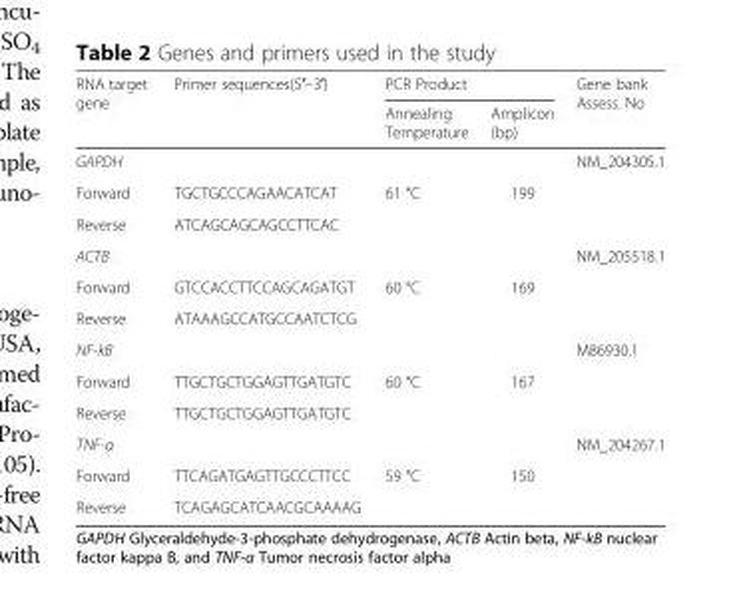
<table><thead><tr><td rowspan="2">RNA target gene</td><td rowspan="2">Primer sequences(5′–3′)</td><td colspan="2">PCR Product</td><td rowspan="2">Gene bank Assess. No</td></tr><tr><td>Annealing Temperature</td><td>Amplicon (bp)</td></tr></thead><tbody><tr><td>GAPDH</td><td></td><td></td><td></td><td>NM_204305.1</td></tr><tr><td>Forward</td><td>TGCTGCCCAGAACATCAT</td><td>61 °C</td><td>199</td><td></td></tr><tr><td>Reverse</td><td>ATCAGCAGCAGCCTTCAC</td><td></td><td></td><td></td></tr><tr><td>ACTB</td><td></td><td></td><td></td><td>NM_205518.1</td></tr><tr><td>Forward</td><td>GTCCACCTTCCAGCAGATGT</td><td>60 °C</td><td>169</td><td></td></tr><tr><td>Reverse</td><td>ATAAAGCCATGCCAATCTCG</td><td></td><td></td><td></td></tr><tr><td>NF-kB</td><td></td><td></td><td></td><td>M86930.1</td></tr><tr><td>Forward</td><td>TTGCTGCTGGAGTTGATGTC</td><td>60 °C</td><td>167</td><td></td></tr><tr><td>Reverse</td><td>TTGCTGCTGGAGTTGATGTC</td><td></td><td></td><td></td></tr><tr><td>TNF-α</td><td></td><td></td><td></td><td>NM_204267.1</td></tr><tr><td>Forward</td><td>TTCAGATGAGTTGCCCTTCC</td><td>59 °C</td><td>150</td><td></td></tr><tr><td>Reverse</td><td>TCAGAGCATCAACGCAAAAG</td><td></td><td></td><td></td></tr></tbody></table>